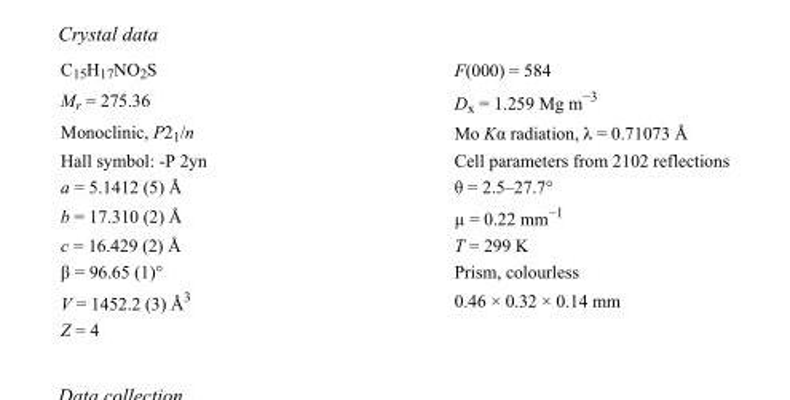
<table><tbody><tr><td>C<sub>15</sub>H<sub>17</sub>NO<sub>2</sub>S</td><td>F(000) = 584</td></tr><tr><td>M<sub>r</sub> = 275.36</td><td>D<sub>x</sub> = 1.259 Mg m<sup>−3</sup></td></tr><tr><td>Monoclinic, P2<sub>1</sub>/n</td><td>Mo Kα radiation, λ = 0.71073 Å</td></tr><tr><td>Hall symbol: -P 2yn</td><td>Cell parameters from 2102 reflections</td></tr><tr><td>a = 5.1412 (5) Å</td><td>θ = 2.5–27.7°</td></tr><tr><td>b = 17.310 (2) Å</td><td>µ = 0.22 mm<sup>−1</sup></td></tr><tr><td>c = 16.429 (2) Å</td><td>T = 299 K</td></tr><tr><td>β = 96.65 (1)°</td><td>Prism, colourless</td></tr><tr><td>V = 1452.2 (3) Å<sup>3</sup></td><td>0.46 × 0.32 × 0.14 mm</td></tr><tr><td>Z = 4</td><td></td></tr></tbody></table>